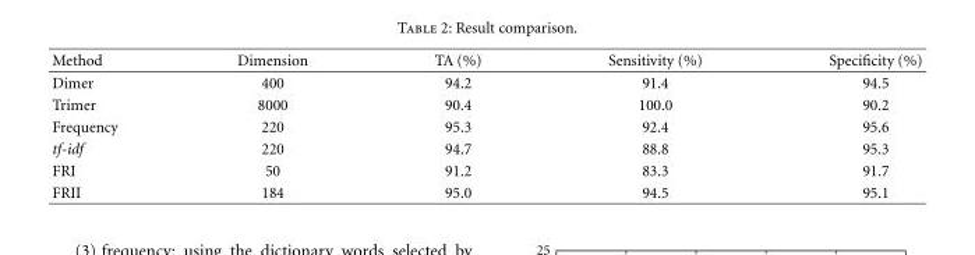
<table><thead><tr><td>Method</td><td>Dimension</td><td>TA (%)</td><td>Sensitivity (%)</td><td>Specificity (%)</td></tr></thead><tbody><tr><td>Dimer</td><td>400</td><td>94.2</td><td>91.4</td><td>94.5</td></tr><tr><td>Trimer</td><td>8000</td><td>90.4</td><td>100.0</td><td>90.2</td></tr><tr><td>Frequency</td><td>220</td><td>95.3</td><td>92.4</td><td>95.6</td></tr><tr><td>tf-idf</td><td>220</td><td>94.7</td><td>88.8</td><td>95.3</td></tr><tr><td>FRI</td><td>50</td><td>91.2</td><td>83.3</td><td>91.7</td></tr><tr><td>FRII</td><td>184</td><td>95.0</td><td>94.5</td><td>95.1</td></tr></tbody></table>